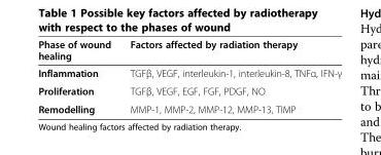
<table><thead><tr><td>Phase of wound healing</td><td>Factors affected by radiation therapy</td></tr></thead><tbody><tr><td>Inflammation</td><td>TGFβ, VEGF, interleukin-1, interleukin-8, TNFα, IFN-γ</td></tr><tr><td>Proliferation</td><td>TGFβ, VEGF, EGF, FGF, PDGF, NO</td></tr><tr><td>Remodelling</td><td>MMP-1, MMP-2, MMP-12, MMP-13, TIMP</td></tr></tbody></table>